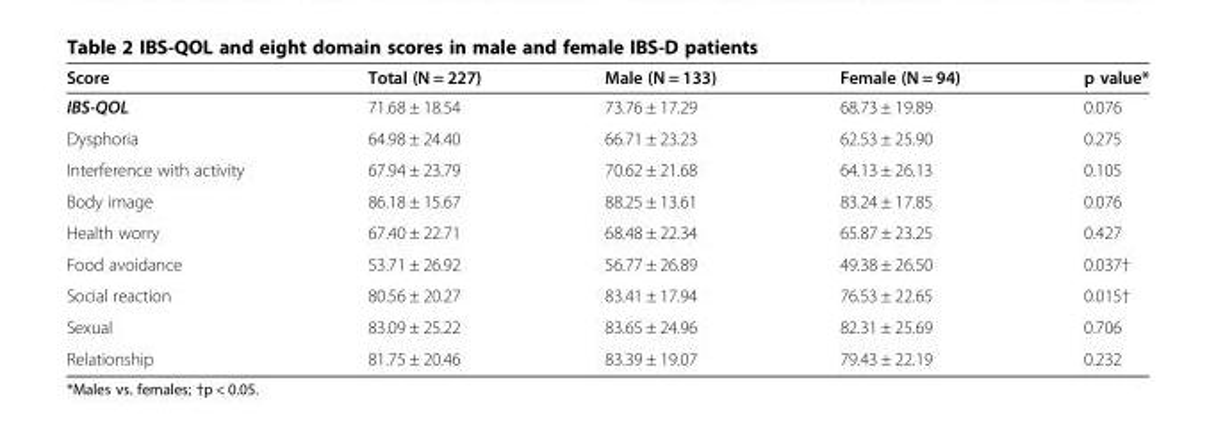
<table><thead><tr><td>Score</td><td>Total (N = 227)</td><td>Male (N = 133)</td><td>Female (N = 94)</td><td>p value*</td></tr></thead><tbody><tr><td>IBS-QOL</td><td>71.68 ± 18.54</td><td>73.76 ± 17.29</td><td>68.73 ± 19.89</td><td>0.076</td></tr><tr><td>Dysphoria</td><td>64.98 ± 24.40</td><td>66.71 ± 23.23</td><td>62.53 ± 25.90</td><td>0.275</td></tr><tr><td>Interference with activity</td><td>67.94 ± 23.79</td><td>70.62 ± 21.68</td><td>64.13 ± 26.13</td><td>0.105</td></tr><tr><td>Body image</td><td>86.18 ± 15.67</td><td>88.25 ± 13.61</td><td>83.24 ± 17.85</td><td>0.076</td></tr><tr><td>Health worry</td><td>67.40 ± 22.71</td><td>68.48 ± 22.34</td><td>65.87 ± 23.25</td><td>0.427</td></tr><tr><td>Food avoidance</td><td>53.71 ± 26.92</td><td>56.77 ± 26.89</td><td>49.38 ± 26.50</td><td>0.037†</td></tr><tr><td>Social reaction</td><td>80.56 ± 20.27</td><td>83.41 ± 17.94</td><td>76.53 ± 22.65</td><td>0.015†</td></tr><tr><td>Sexual</td><td>83.09 ± 25.22</td><td>83.65 ± 24.96</td><td>82.31 ± 25.69</td><td>0.706</td></tr><tr><td>Relationship</td><td>81.75 ± 20.46</td><td>83.39 ± 19.07</td><td>79.43 ± 22.19</td><td>0.232</td></tr></tbody></table>